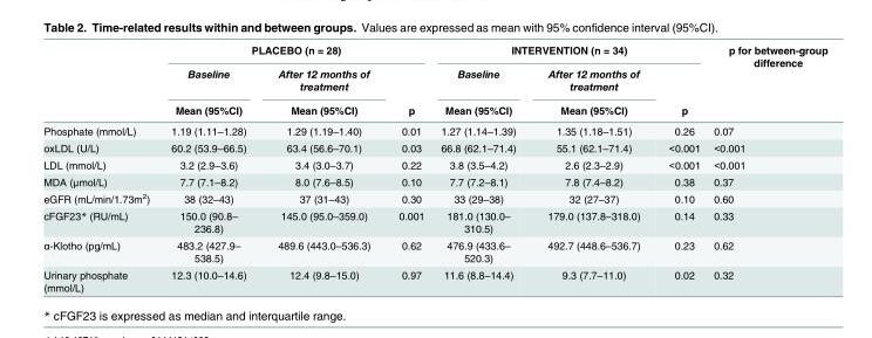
<table><thead><tr><td rowspan="3"></td><td colspan="3">PLACEBO (n = 28)</td><td colspan="3">INTERVENTION (n = 34)</td><td rowspan="3">p for between-group difference</td></tr><tr><td rowspan="2">Baseline Mean (95%CI)</td><td rowspan="2">After 12 months of treatment Mean (95%CI)</td><td rowspan="2">p</td><td rowspan="2">Baseline Mean (95%CI)</td><td rowspan="2">After 12 months of treatment Mean (95%CI)</td><td rowspan="2">p</td></tr><tr></tr></thead><tbody><tr><td>Phosphate (mmol/L)</td><td>1.19 (1.11–1.28)</td><td>1.29 (1.19–1.40)</td><td>0.01</td><td>1.27 (1.14–1.39)</td><td>1.35 (1.18–1.51)</td><td>0.26</td><td>0.07</td></tr><tr><td>oxLDL (U/L)</td><td>60.2 (53.9–66.5)</td><td>63.4 (56.6–70.1)</td><td>0.03</td><td>66.8 (62.1–71.4)</td><td>55.1 (62.1–71.4)</td><td>&lt;0.001</td><td>&lt;0.001</td></tr><tr><td>LDL (mmol/L)</td><td>3.2 (2.9–3.6)</td><td>3.4 (3.0–3.7)</td><td>0.22</td><td>3.8 (3.5–4.2)</td><td>2.6 (2.3–2.9)</td><td>&lt;0.001</td><td>&lt;0.001</td></tr><tr><td>MDA (μmol/L)</td><td>7.7 (7.1–8.2)</td><td>8.0 (7.6–8.5)</td><td>0.10</td><td>7.7 (7.2–8.1)</td><td>7.8 (7.4–8.2)</td><td>0.38</td><td>0.37</td></tr><tr><td>eGFR (mL/min/1.73m<sup>2</sup>)</td><td>38 (32–43)</td><td>37 (31–43)</td><td>0.30</td><td>33 (29–38)</td><td>32 (27–37)</td><td>0.10</td><td>0.60</td></tr><tr><td>cFGF23* (RU/mL)</td><td>150.0 (90.8– 236.8)</td><td>145.0 (95.0–359.0)</td><td>0.001</td><td>181.0 (130.0– 310.5)</td><td>179.0 (137.8–318.0)</td><td>0.14</td><td>0.33</td></tr><tr><td>α-Klotho (pg/mL)</td><td>483.2 (427.9– 538.5)</td><td>489.6 (443.0–536.3)</td><td>0.62</td><td>476.9 (433.6– 520.3)</td><td>492.7 (448.6–536.7)</td><td>0.23</td><td>0.62</td></tr><tr><td>Urinary phosphate (mmol/L)</td><td>12.3 (10.0–14.6)</td><td>12.4 (9.8–15.0)</td><td>0.97</td><td>11.6 (8.8–14.4)</td><td>9.3 (7.7–11.0)</td><td>0.02</td><td>0.32</td></tr></tbody></table>